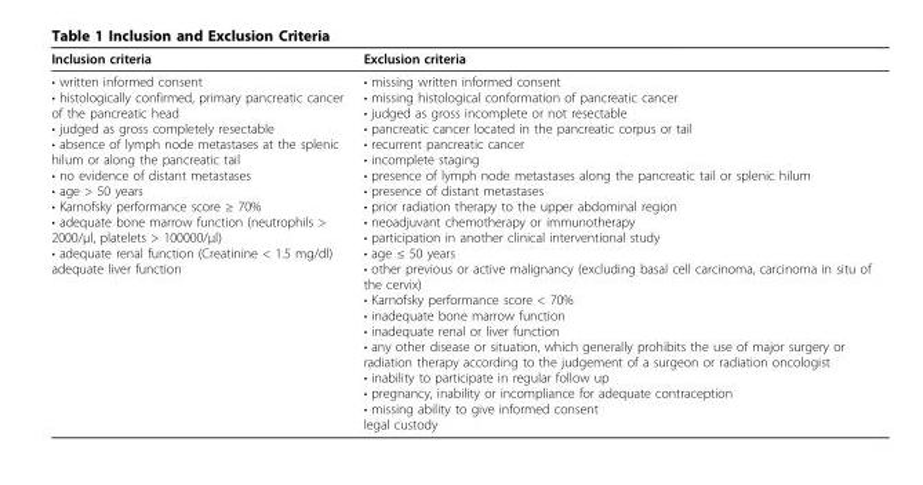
<table><thead><tr><td>Inclusion criteria</td><td>Exclusion criteria</td></tr></thead><tbody><tr><td>• written informed consent • histologically confirmed, primary pancreatic cancer of the pancreatic head • judged as gross completely resectable • absence of lymph node metastases at the splenic hilum or along the pancreatic tail • no evidence of distant metastases • age &gt; 50 years • Karnofsky performance score ≥ 70% • adequate bone marrow function (neutrophils &gt; 2000/μl, platelets &gt; 100000/μl) • adequate renal function (Creatinine &lt; 1.5 mg/dl) adequate liver function</td><td>• missing written informed consent • missing histological conformation of pancreatic cancer • judged as gross incomplete or not resectable • pancreatic cancer located in the pancreatic corpus or tail • recurrent pancreatic cancer • incomplete staging • presence of lymph node metastases along the pancreatic tail or splenic hilum • presence of distant metastases • prior radiation therapy to the upper abdominal region • neoadjuvant chemotherapy or immunotherapy • participation in another clinical interventional study • age ≤ 50 years • other previous or active malignancy (excluding basal cell carcinoma, carcinoma in situ of the cervix) • Karnofsky performance score &lt; 70% • inadequate bone marrow function • inadequate renal or liver function • any other disease or situation, which generally prohibits the use of major surgery or radiation therapy according to the judgement of a surgeon or radiation oncologist • inability to participate in regular follow up • pregnancy, inability or incompliance for adequate contraception • missing ability to give informed consent legal custody</td></tr></tbody></table>